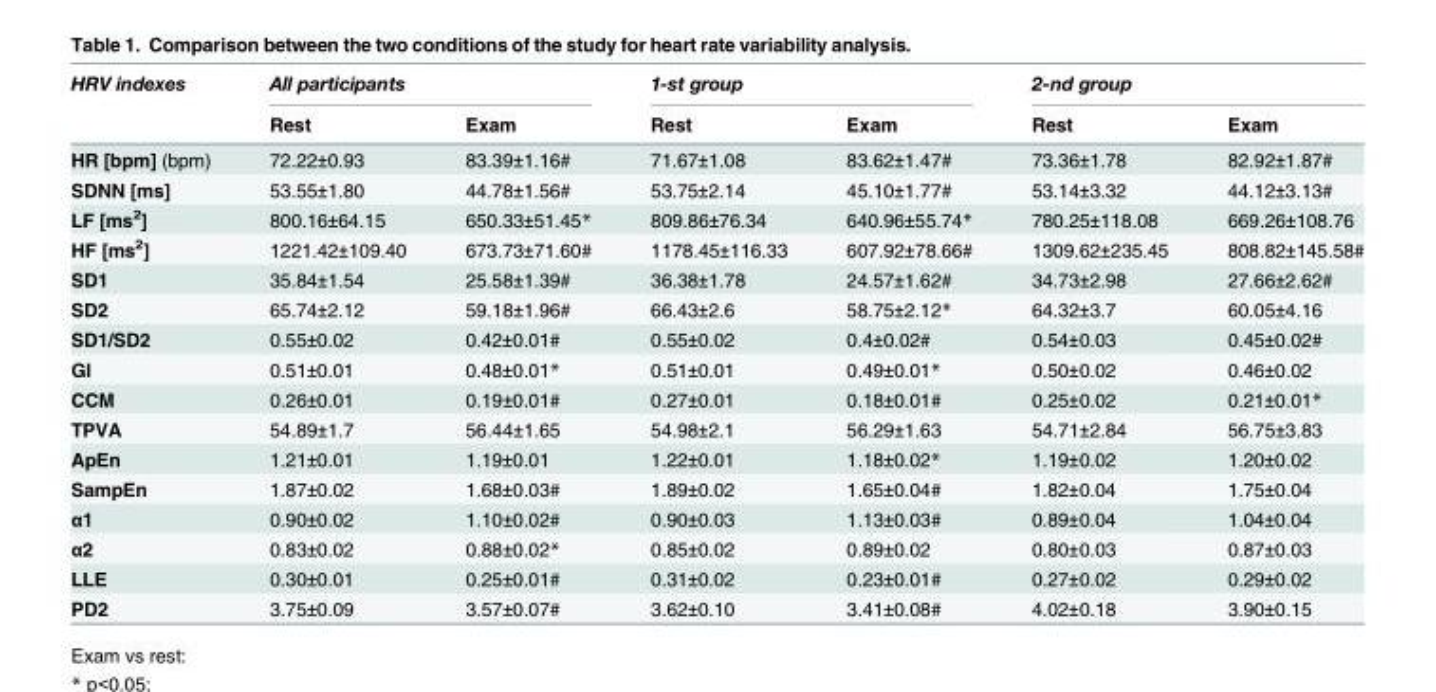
<table><thead><tr><td rowspan="2">HRV indexes</td><td colspan="2">All participants</td><td colspan="2">1-st group</td><td colspan="2">2-nd group</td></tr><tr><td>Rest</td><td>Exam</td><td>Rest</td><td>Exam</td><td>Rest</td><td>Exam</td></tr></thead><tbody><tr><td>HR [bpm] (bpm)</td><td>72.22±0.93</td><td>83.39±1.16#</td><td>71.67±1.08</td><td>83.62±1.47#</td><td>73.36±1.78</td><td>82.92±1.87#</td></tr><tr><td>SDNN [ms]</td><td>53.55±1.80</td><td>44.78±1.56#</td><td>53.75±2.14</td><td>45.10±1.77#</td><td>53.14±3.32</td><td>44.12±3.13#</td></tr><tr><td>LF [ms<sup>2</sup>]</td><td>800.16±64.15</td><td>650.33±51.45*</td><td>809.86±76.34</td><td>640.96±55.74*</td><td>780.25±118.08</td><td>669.26±108.76</td></tr><tr><td>HF [ms<sup>2</sup>]</td><td>1221.42±109.40</td><td>673.73±71.60#</td><td>1178.45±116.33</td><td>607.92±78.66#</td><td>1309.62±235.45</td><td>808.82±145.58#</td></tr><tr><td>SD1</td><td>35.84±1.54</td><td>25.58±1.39#</td><td>36.38±1.78</td><td>24.57±1.62#</td><td>34.73±2.98</td><td>27.66±2.62#</td></tr><tr><td>SD2</td><td>65.74±2.12</td><td>59.18±1.96#</td><td>66.43±2.6</td><td>58.75±2.12*</td><td>64.32±3.7</td><td>60.05±4.16</td></tr><tr><td>SD1/SD2</td><td>0.55±0.02</td><td>0.42±0.01#</td><td>0.55±0.02</td><td>0.4±0.02#</td><td>0.54±0.03</td><td>0.45±0.02#</td></tr><tr><td>GI</td><td>0.51±0.01</td><td>0.48±0.01*</td><td>0.51±0.01</td><td>0.49±0.01*</td><td>0.50±0.02</td><td>0.46±0.02</td></tr><tr><td>CCM</td><td>0.26±0.01</td><td>0.19±0.01#</td><td>0.27±0.01</td><td>0.18±0.01#</td><td>0.25±0.02</td><td>0.21±0.01*</td></tr><tr><td>TPVA</td><td>54.89±1.7</td><td>56.44±1.65</td><td>54.98±2.1</td><td>56.29±1.63</td><td>54.71±2.84</td><td>56.75±3.83</td></tr><tr><td>ApEn</td><td>1.21±0.01</td><td>1.19±0.01</td><td>1.22±0.01</td><td>1.18±0.02*</td><td>1.19±0.02</td><td>1.20±0.02</td></tr><tr><td>SampEn</td><td>1.87±0.02</td><td>1.68±0.03#</td><td>1.89±0.02</td><td>1.65±0.04#</td><td>1.82±0.04</td><td>1.75±0.04</td></tr><tr><td>α1</td><td>0.90±0.02</td><td>1.10±0.02#</td><td>0.90±0.03</td><td>1.13±0.03#</td><td>0.89±0.04</td><td>1.04±0.04</td></tr><tr><td>α2</td><td>0.83±0.02</td><td>0.88±0.02*</td><td>0.85±0.02</td><td>0.89±0.02</td><td>0.80±0.03</td><td>0.87±0.03</td></tr><tr><td>LLE</td><td>0.30±0.01</td><td>0.25±0.01#</td><td>0.31±0.02</td><td>0.23±0.01#</td><td>0.27±0.02</td><td>0.29±0.02</td></tr><tr><td>PD2</td><td>3.75±0.09</td><td>3.57±0.07#</td><td>3.62±0.10</td><td>3.41±0.08#</td><td>4.02±0.18</td><td>3.90±0.15</td></tr></tbody></table>